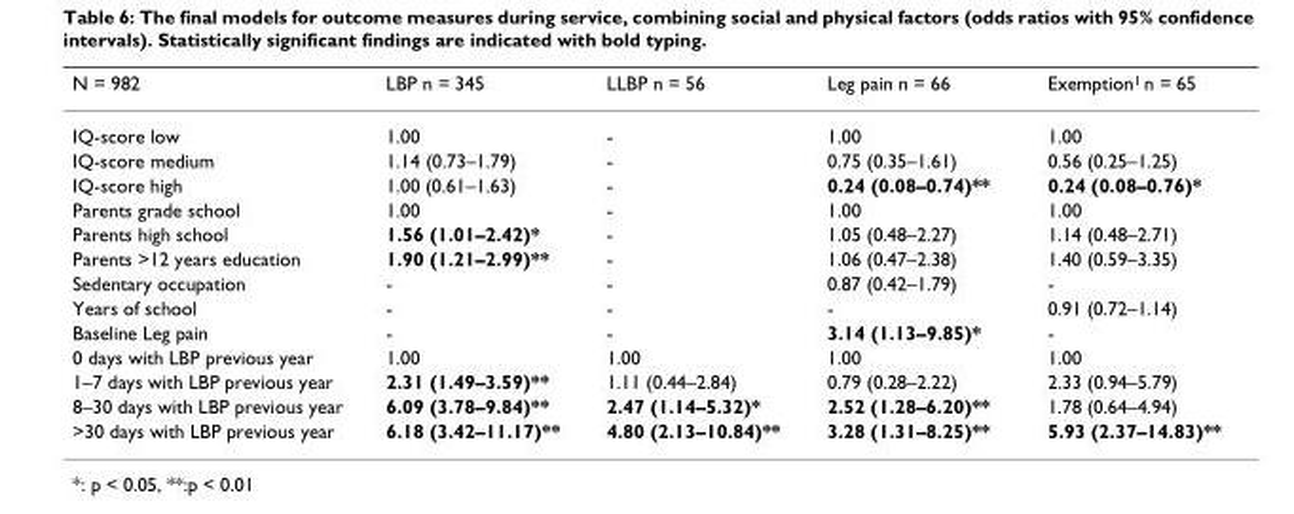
<table><thead><tr><td>N = 982</td><td>LBP n = 345</td><td>LLBP n = 56</td><td>Leg pain n = 66</td><td>Exemption<sup>1</sup> n = 65</td></tr></thead><tbody><tr><td>IQ-score low</td><td>1.00</td><td>-</td><td>1.00</td><td>1.00</td></tr><tr><td>IQ-score medium</td><td>1.14 (0.73–1.79)</td><td>-</td><td>0.75 (0.35–1.61)</td><td>0.56 (0.25–1.25)</td></tr><tr><td>IQ-score high</td><td>1.00 (0.61–1.63)</td><td>-</td><td>0.24 (0.08–0.74)**</td><td>0.24 (0.08–0.76)*</td></tr><tr><td>Parents grade school</td><td>1.00</td><td>-</td><td>1.00</td><td>1.00</td></tr><tr><td>Parents high school</td><td>1.56 (1.01–2.42)*</td><td>-</td><td>1.05 (0.48–2.27)</td><td>1.14 (0.48–2.71)</td></tr><tr><td>Parents &gt;12 years education</td><td>1.90 (1.21–2.99)**</td><td>-</td><td>1.06 (0.47–2.38)</td><td>1.40 (0.59–3.35)</td></tr><tr><td>Sedentary occupation</td><td>-</td><td>-</td><td>0.87 (0.42–1.79)</td><td>-</td></tr><tr><td>Years of school</td><td>-</td><td>-</td><td>-</td><td>0.91 (0.72–1.14)</td></tr><tr><td>Baseline Leg pain</td><td>-</td><td>-</td><td>3.14 (1.13–9.85)*</td><td>-</td></tr><tr><td>0 days with LBP previous year</td><td>1.00</td><td>1.00</td><td>1.00</td><td>1.00</td></tr><tr><td>1–7 days with LBP previous year</td><td>2.31 (1.49–3.59)**</td><td>1.11 (0.44–2.84)</td><td>0.79 (0.28–2.22)</td><td>2.33 (0.94–5.79)</td></tr><tr><td>8–30 days with LBP previous year</td><td>6.09 (3.78–9.84)**</td><td>2.47 (1.14–5.32)*</td><td>2.52 (1.28–6.20)**</td><td>1.78 (0.64–4.94)</td></tr><tr><td>&gt;30 days with LBP previous year</td><td>6.18 (3.42–11.17)**</td><td>4.80 (2.13–10.84)**</td><td>3.28 (1.31–8.25)**</td><td>5.93 (2.37–14.83)**</td></tr></tbody></table>